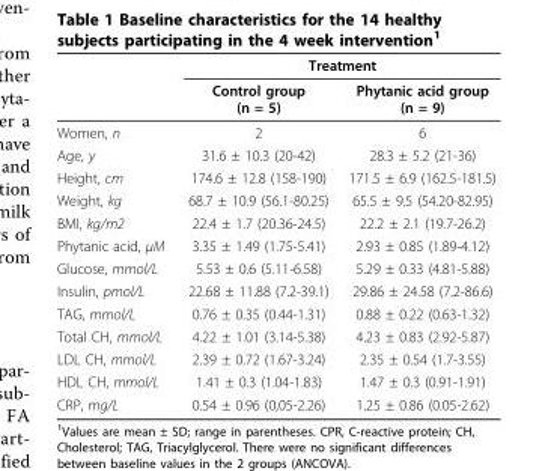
<table><thead><tr><td rowspan="2"></td><td colspan="2">Treatment</td></tr><tr><td>Control group (n = 5)</td><td>Phytanic acid group (n = 9)</td></tr></thead><tbody><tr><td>Women, n</td><td>2</td><td>6</td></tr><tr><td>Age, y</td><td>31.6 ± 10.3 (20-42)</td><td>28.3 ± 5.2 (21-36)</td></tr><tr><td>Height, cm</td><td>174.6 ± 12.8 (158-190)</td><td>171.5 ± 6.9 (162.5-181.5)</td></tr><tr><td>Weight, kg</td><td>68.7 ± 10.9 (56.1-80.25)</td><td>65.5 ± 9.5 (54.20-82.95)</td></tr><tr><td>BMI, kg/m2</td><td>22.4 ± 1.7 (20.36-24.5)</td><td>22.2 ± 2.1 (19.7-26.2)</td></tr><tr><td>Phytanic acid, μM</td><td>3.35 ± 1.49 (1.75-5.41)</td><td>2.93 ± 0.85 (1.89-4.12)</td></tr><tr><td>Glucose, mmol/L</td><td>5.53 ± 0.6 (5.11-6.58)</td><td>5.29 ± 0.33 (4.81-5.88)</td></tr><tr><td>Insulin, pmol/L</td><td>22.68 ± 11.88 (7.2-39.1)</td><td>29.86 ± 24.58 (7.2-86.6)</td></tr><tr><td>TAG, mmol/L</td><td>0.76 ± 0.35 (0.44-1.31)</td><td>0.88 ± 0.22 (0.63-1.32)</td></tr><tr><td>Total CH, mmol/L</td><td>4.22 ± 1.01 (3.14-5.38)</td><td>4.23 ± 0.83 (2.92-5.87)</td></tr><tr><td>LDL CH, mmol/L</td><td>2.39 ± 0.72 (1.67-3.24)</td><td>2.35 ± 0.54 (1.7-3.55)</td></tr><tr><td>HDL CH, mmol/L</td><td>1.41 ± 0.3 (1.04-1.83)</td><td>1.47 ± 0.3 (0.91-1.91)</td></tr><tr><td>CRP, mg/L</td><td>0.54 ± 0.96 (0,05-2.26)</td><td>1.25 ± 0.86 (0.05-2.62)</td></tr></tbody></table>